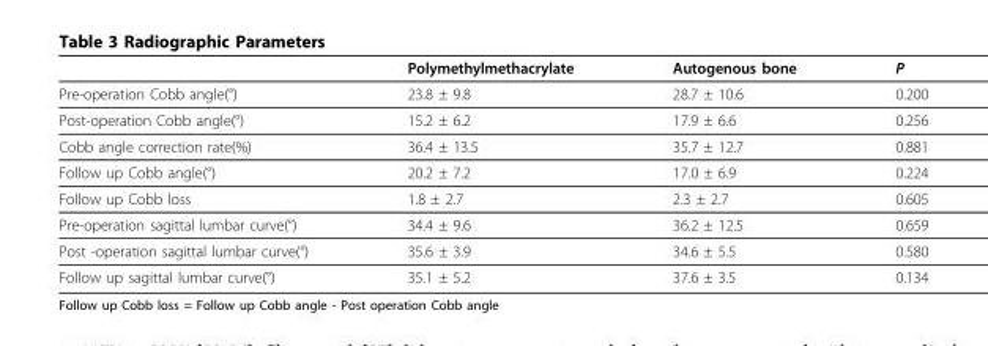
<table><thead><tr><td></td><td>Polymethylmethacrylate</td><td>Autogenous bone</td><td>P</td></tr></thead><tbody><tr><td>Pre-operation Cobb angle(°)</td><td>23.8 ± 9.8</td><td>28.7 ± 10.6</td><td>0.200</td></tr><tr><td>Post-operation Cobb angle(°)</td><td>15.2 ± 6.2</td><td>17.9 ± 6.6</td><td>0.256</td></tr><tr><td>Cobb angle correction rate(%)</td><td>36.4 ± 13.5</td><td>35.7 ± 12.7</td><td>0.881</td></tr><tr><td>Follow up Cobb angle(°)</td><td>20.2 ± 7.2</td><td>17.0 ± 6.9</td><td>0.224</td></tr><tr><td>Follow up Cobb loss</td><td>1.8 ± 2.7</td><td>2.3 ± 2.7</td><td>0.605</td></tr><tr><td>Pre-operation sagittal lumbar curve(°)</td><td>34.4 ± 9.6</td><td>36.2 ± 12.5</td><td>0.659</td></tr><tr><td>Post -operation sagittal lumbar curve(°)</td><td>35.6 ± 3.9</td><td>34.6 ± 5.5</td><td>0.580</td></tr><tr><td>Follow up sagittal lumbar curve(°)</td><td>35.1 ± 5.2</td><td>37.6 ± 3.5</td><td>0.134</td></tr></tbody></table>